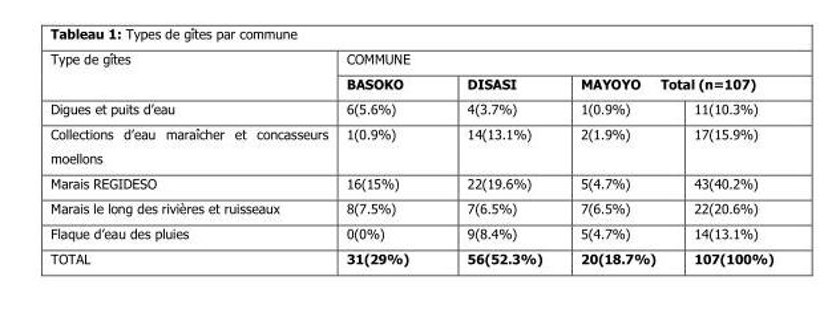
<table><thead><tr><td rowspan="3">Type de gîtes Digues et puits d’eau</td><td colspan="4">COMMUNE</td></tr><tr><td rowspan="2">BASOKO 6(5.6%)</td><td rowspan="2">DISASI 4(3.7%)</td><td colspan="2">MAYOYO Total (n=107)</td></tr><tr><td>1(0.9%)</td><td>11(10.3%)</td></tr></thead><tbody><tr><td>Collections d’eau maraîcher et concasseurs moellons</td><td>1(0.9%)</td><td>14(13.1%)</td><td>2(1.9%)</td><td>17(15.9%)</td></tr><tr><td>Marais REGIDESO</td><td>16(15%)</td><td>22(19.6%)</td><td>5(4.7%)</td><td>43(40.2%)</td></tr><tr><td>Marais le long des rivières et ruisseaux</td><td>8(7.5%)</td><td>7(6.5%)</td><td>7(6.5%)</td><td>22(20.6%)</td></tr><tr><td>Flaque d’eau des pluies</td><td>0(0%)</td><td>9(8.4%)</td><td>5(4.7%)</td><td>14(13.1%)</td></tr><tr><td>TOTAL</td><td>31(29%)</td><td>56(52.3%)</td><td>20(18.7%)</td><td>107(100%)</td></tr></tbody></table>